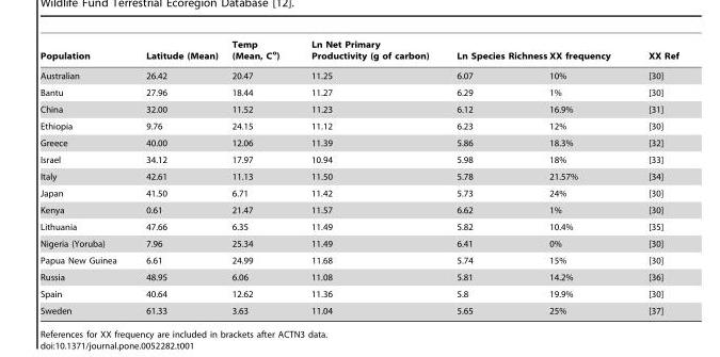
<table><thead><tr><td>Population</td><td>Latitude (Mean)</td><td>Temp (Mean, C<sup>o</sup>)</td><td>Ln Net Primary Productivity (g of carbon)</td><td>Ln Species Richness</td><td>XX frequency</td><td>XX Ref</td></tr></thead><tbody><tr><td>Australian</td><td>26.42</td><td>20.47</td><td>11.25</td><td>6.07</td><td>10%</td><td>[30]</td></tr><tr><td>Bantu</td><td>27.96</td><td>18.44</td><td>11.27</td><td>6.29</td><td>1%</td><td>[30]</td></tr><tr><td>China</td><td>32.00</td><td>11.52</td><td>11.23</td><td>6.12</td><td>16.9%</td><td>[31]</td></tr><tr><td>Ethiopia</td><td>9.76</td><td>24.15</td><td>11.12</td><td>6.23</td><td>12%</td><td>[30]</td></tr><tr><td>Greece</td><td>40.00</td><td>12.06</td><td>11.39</td><td>5.86</td><td>18.3%</td><td>[32]</td></tr><tr><td>Israel</td><td>34.12</td><td>17.97</td><td>10.94</td><td>5.98</td><td>18%</td><td>[33]</td></tr><tr><td>Italy</td><td>42.61</td><td>11.13</td><td>11.50</td><td>5.78</td><td>21.57%</td><td>[34]</td></tr><tr><td>Japan</td><td>41.50</td><td>6.71</td><td>11.42</td><td>5.73</td><td>24%</td><td>[30]</td></tr><tr><td>Kenya</td><td>0.61</td><td>21.47</td><td>11.57</td><td>6.62</td><td>1%</td><td>[30]</td></tr><tr><td>Lithuania</td><td>47.66</td><td>6.35</td><td>11.49</td><td>5.82</td><td>10.4%</td><td>[35]</td></tr><tr><td>Nigeria (Yoruba)</td><td>7.96</td><td>25.34</td><td>11.49</td><td>6.41</td><td>0%</td><td>[30]</td></tr><tr><td>Papua New Guinea</td><td>6.61</td><td>24.99</td><td>11.68</td><td>5.74</td><td>15%</td><td>[30]</td></tr><tr><td>Russia</td><td>48.95</td><td>6.06</td><td>11.08</td><td>5.81</td><td>14.2%</td><td>[36]</td></tr><tr><td>Spain</td><td>40.64</td><td>12.62</td><td>11.36</td><td>5.8</td><td>19.9%</td><td>[30]</td></tr><tr><td>Sweden</td><td>61.33</td><td>3.63</td><td>11.04</td><td>5.65</td><td>25%</td><td>[37]</td></tr></tbody></table>